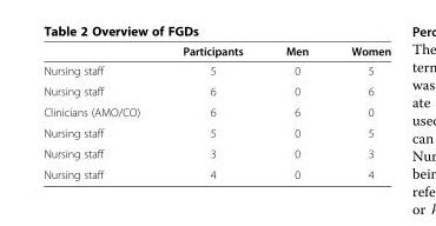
<table><thead><tr><td></td><td>Participants</td><td>Men</td><td>Women</td></tr></thead><tbody><tr><td>Nursing staff</td><td>5</td><td>0</td><td>5</td></tr><tr><td>Nursing staff</td><td>6</td><td>0</td><td>6</td></tr><tr><td>Clinicians (AMO/CO)</td><td>6</td><td>6</td><td>0</td></tr><tr><td>Nursing staff</td><td>5</td><td>0</td><td>5</td></tr><tr><td>Nursing staff</td><td>3</td><td>0</td><td>3</td></tr><tr><td>Nursing staff</td><td>4</td><td>0</td><td>4</td></tr></tbody></table>